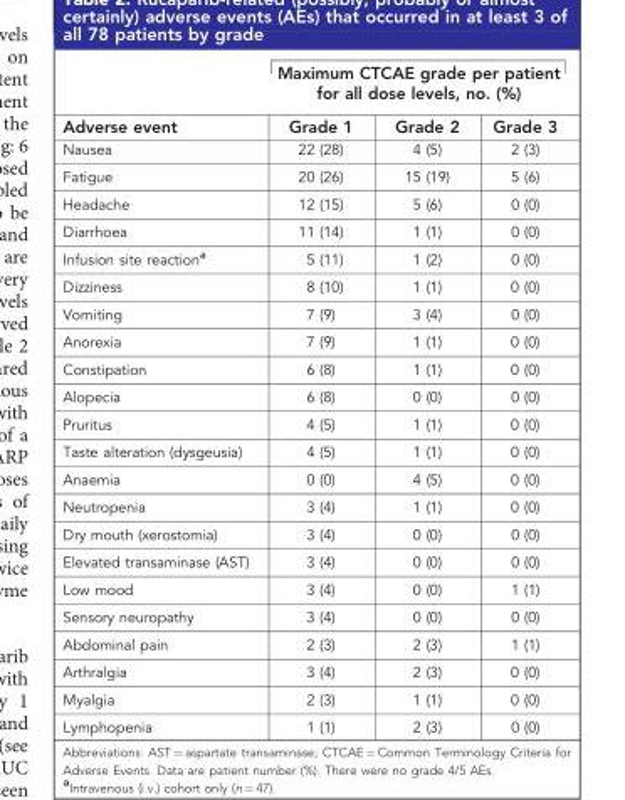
<table><thead><tr><td rowspan="2">Adverse event</td><td colspan="3">Maximum CTCAE grade per patient for all dose levels, no. (%)</td></tr><tr><td>Grade 1</td><td>Grade 2</td><td>Grade 3</td></tr></thead><tbody><tr><td>Nausea</td><td>22 (28)</td><td>4 (5)</td><td>2 (3)</td></tr><tr><td>Fatigue</td><td>20 (26)</td><td>15 (19)</td><td>5 (6)</td></tr><tr><td>Headache</td><td>12 (15)</td><td>5 (6)</td><td>0 (0)</td></tr><tr><td>Diarrhoea</td><td>11 (14)</td><td>1 (1)</td><td>0 (0)</td></tr><tr><td>Infusion site reaction<sup>a</sup></td><td>5 (11)</td><td>1 (2)</td><td>0 (0)</td></tr><tr><td>Dizziness</td><td>8 (10)</td><td>1 (1)</td><td>0 (0)</td></tr><tr><td>Vomiting</td><td>7 (9)</td><td>3 (4)</td><td>0 (0)</td></tr><tr><td>Anorexia</td><td>7 (9)</td><td>1 (1)</td><td>0 (0)</td></tr><tr><td>Constipation</td><td>6 (8)</td><td>1 (1)</td><td>0 (0)</td></tr><tr><td>Alopecia</td><td>6 (8)</td><td>0 (0)</td><td>0 (0)</td></tr><tr><td>Pruritus</td><td>4 (5)</td><td>1 (1)</td><td>0 (0)</td></tr><tr><td>Taste alteration (dysgeusia)</td><td>4 (5)</td><td>1 (1)</td><td>0 (0)</td></tr><tr><td>Anaemia</td><td>0 (0)</td><td>4 (5)</td><td>0 (0)</td></tr><tr><td>Neutropenia</td><td>3 (4)</td><td>1 (1)</td><td>0 (0)</td></tr><tr><td>Dry mouth (xerostomia)</td><td>3 (4)</td><td>0 (0)</td><td>0 (0)</td></tr><tr><td>Elevated transaminase (AST)</td><td>3 (4)</td><td>0 (0)</td><td>0 (0)</td></tr><tr><td>Low mood</td><td>3 (4)</td><td>0 (0)</td><td>1 (1)</td></tr><tr><td>Sensory neuropathy</td><td>3 (4)</td><td>0 (0)</td><td>0 (0)</td></tr><tr><td>Abdominal pain</td><td>2 (3)</td><td>2 (3)</td><td>1 (1)</td></tr><tr><td>Arthralgia</td><td>3 (4)</td><td>2 (3)</td><td>0 (0)</td></tr><tr><td>Myalgia</td><td>2 (3)</td><td>1 (1)</td><td>0 (0)</td></tr><tr><td>Lymphopenia</td><td>1 (1)</td><td>2 (3)</td><td>0 (0)</td></tr></tbody></table>